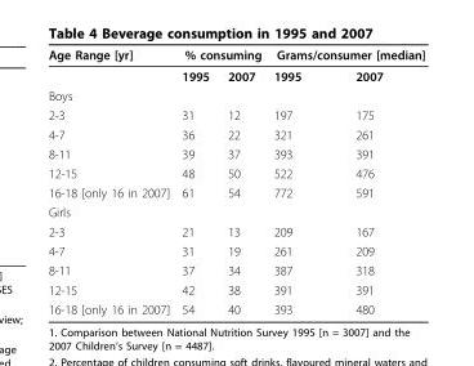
<table><thead><tr><td rowspan="2">Age Range [yr]</td><td colspan="2">% consuming</td><td colspan="2">Grams/consumer [median]</td></tr><tr><td>1995</td><td>2007</td><td>1995</td><td>2007</td></tr></thead><tbody><tr><td colspan="5">Boys</td></tr><tr><td>2-3</td><td>31</td><td>12</td><td>197</td><td>175</td></tr><tr><td>4-7</td><td>36</td><td>22</td><td>321</td><td>261</td></tr><tr><td>8-11</td><td>39</td><td>37</td><td>393</td><td>391</td></tr><tr><td>12-15</td><td>48</td><td>50</td><td>522</td><td>476</td></tr><tr><td>16-18 [only 16 in 2007]</td><td>61</td><td>54</td><td>772</td><td>591</td></tr><tr><td colspan="5">Girls</td></tr><tr><td>2-3</td><td>21</td><td>13</td><td>209</td><td>167</td></tr><tr><td>4-7</td><td>31</td><td>19</td><td>261</td><td>209</td></tr><tr><td>8-11</td><td>37</td><td>34</td><td>387</td><td>318</td></tr><tr><td>12-15</td><td>42</td><td>38</td><td>391</td><td>391</td></tr><tr><td>16-18 [only 16 in 2007]</td><td>54</td><td>40</td><td>393</td><td>480</td></tr></tbody></table>